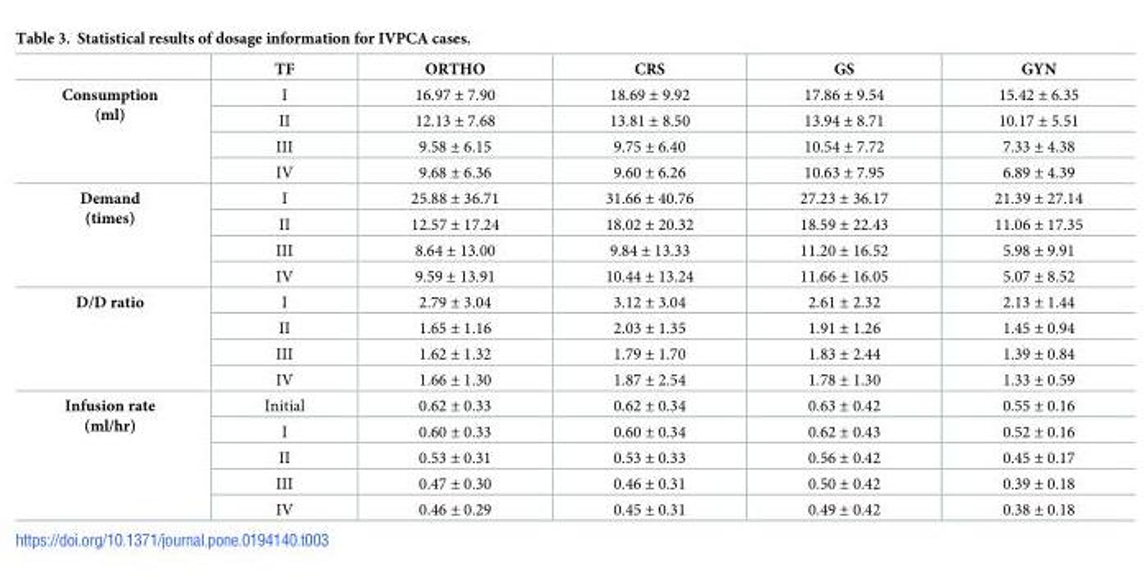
<table><thead><tr><td></td><td>TF</td><td>ORTHO</td><td>CRS</td><td>GS</td><td>GYN</td></tr></thead><tbody><tr><td rowspan="4">Consumption (ml)</td><td>I</td><td>16.97 ± 7.90</td><td>18.69 ± 9.92</td><td>17.86 ± 9.54</td><td>15.42 ± 6.35</td></tr><tr><td>II</td><td>12.13 ± 7.68</td><td>13.81 ± 8.50</td><td>13.94 ± 8.71</td><td>10.17 ± 5.51</td></tr><tr><td>III</td><td>9.58 ± 6.15</td><td>9.75 ± 6.40</td><td>10.54 ± 7.72</td><td>7.33 ± 4.38</td></tr><tr><td>IV</td><td>9.68 ± 6.36</td><td>9.60 ± 6.26</td><td>10.63 ± 7.95</td><td>6.89 ± 4.39</td></tr><tr><td rowspan="4">Demand (times)</td><td>I</td><td>25.88 ± 36.71</td><td>31.66 ± 40.76</td><td>27.23 ± 36.17</td><td>21.39 ± 27.14</td></tr><tr><td>II</td><td>12.57 ± 17.24</td><td>18.02 ± 20.32</td><td>18.59 ± 22.43</td><td>11.06 ± 17.35</td></tr><tr><td>III</td><td>8.64 ± 13.00</td><td>9.84 ± 13.33</td><td>11.20 ± 16.52</td><td>5.98 ± 9.91</td></tr><tr><td>IV</td><td>9.59 ± 13.91</td><td>10.44 ± 13.24</td><td>11.66 ± 16.05</td><td>5.07 ± 8.52</td></tr><tr><td rowspan="4">D/D ratio</td><td>I</td><td>2.79 ± 3.04</td><td>3.12 ± 3.04</td><td>2.61 ± 2.32</td><td>2.13 ± 1.44</td></tr><tr><td>II</td><td>1.65 ± 1.16</td><td>2.03 ± 1.35</td><td>1.91 ± 1.26</td><td>1.45 ± 0.94</td></tr><tr><td>III</td><td>1.62 ± 1.32</td><td>1.79 ± 1.70</td><td>1.83 ± 2.44</td><td>1.39 ± 0.84</td></tr><tr><td>IV</td><td>1.66 ± 1.30</td><td>1.87 ± 2.54</td><td>1.78 ± 1.30</td><td>1.33 ± 0.59</td></tr><tr><td rowspan="5">Infusion rate (ml/hr)</td><td>Initial</td><td>0.62 ± 0.33</td><td>0.62 ± 0.34</td><td>0.63 ± 0.42</td><td>0.55 ± 0.16</td></tr><tr><td>I</td><td>0.60 ± 0.33</td><td>0.60 ± 0.34</td><td>0.62 ± 0.43</td><td>0.52 ± 0.16</td></tr><tr><td>II</td><td>0.53 ± 0.31</td><td>0.53 ± 0.33</td><td>0.56 ± 0.42</td><td>0.45 ± 0.17</td></tr><tr><td>III</td><td>0.47 ± 0.30</td><td>0.46 ± 0.31</td><td>0.50 ± 0.42</td><td>0.39 ± 0.18</td></tr><tr><td>IV</td><td>0.46 ± 0.29</td><td>0.45 ± 0.31</td><td>0.49 ± 0.42</td><td>0.38 ± 0.18</td></tr></tbody></table>